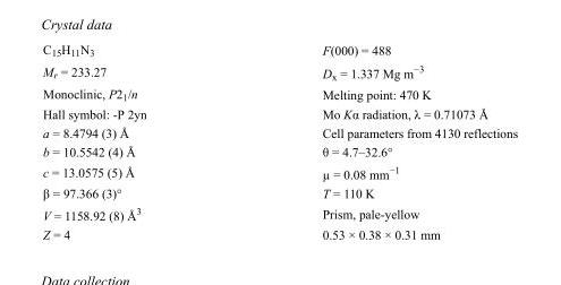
<table><tbody><tr><td>C<sub>15</sub>H<sub>11</sub>N<sub>3</sub></td><td>F(000) = 488</td></tr><tr><td>M<sub>r</sub> = 233.27</td><td>D<sub>x</sub> = 1.337 Mg m<sup>−3</sup></td></tr><tr><td>Monoclinic, P2<sub>1</sub>/n</td><td>Melting point: 470 K</td></tr><tr><td>Hall symbol: -P 2yn</td><td>Mo Kα radiation, λ = 0.71073 Å</td></tr><tr><td>a = 8.4794 (3) Å</td><td>Cell parameters from 4130 reflections</td></tr><tr><td>b = 10.5542 (4) Å</td><td>θ = 4.7–32.6°</td></tr><tr><td>c = 13.0575 (5) Å</td><td>µ = 0.08 mm<sup>−1</sup></td></tr><tr><td>β = 97.366 (3)°</td><td>T = 110 K</td></tr><tr><td>V = 1158.92 (8) Å<sup>3</sup></td><td>Prism, pale-yellow</td></tr><tr><td>Z = 4</td><td>0.53 × 0.38 × 0.31 mm</td></tr></tbody></table>